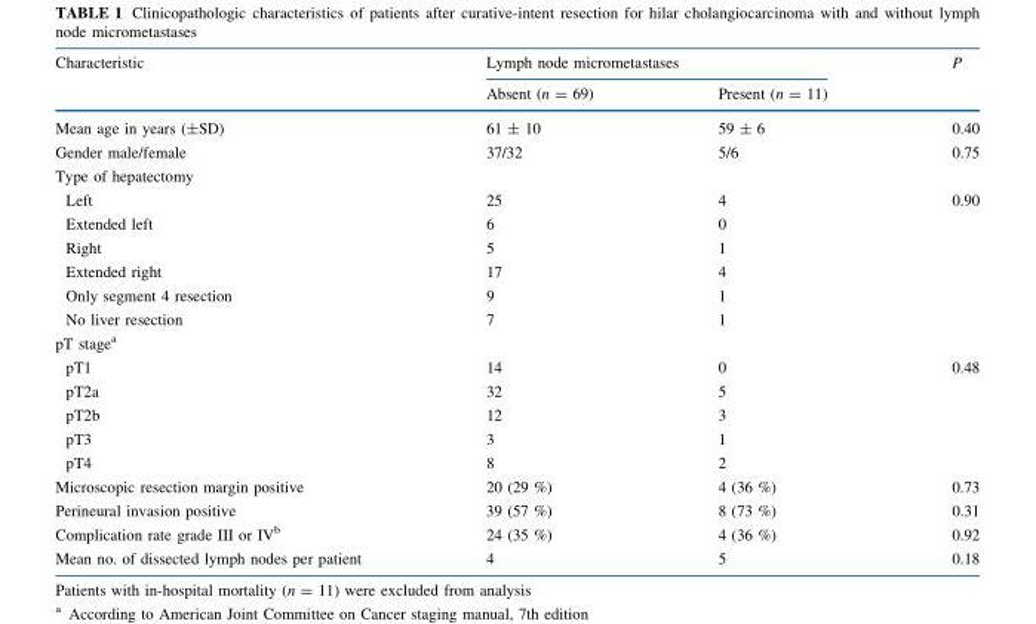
<table><thead><tr><td rowspan="2">Characteristic</td><td colspan="2">Lymph node micrometastases</td><td rowspan="2">P</td></tr><tr><td>Absent (n = 69)</td><td>Present (n = 11)</td></tr></thead><tbody><tr><td>Mean age in years (±SD)</td><td>61 ± 10</td><td>59 ± 6</td><td>0.40</td></tr><tr><td>Gender male/female</td><td>37/32</td><td>5/6</td><td>0.75</td></tr><tr><td colspan="4">Type of hepatectomy</td></tr><tr><td>Left</td><td>25</td><td>4</td><td rowspan="6">0.90</td></tr><tr><td>Extended left</td><td>6</td><td>0</td></tr><tr><td>Right</td><td>5</td><td>1</td></tr><tr><td>Extended right</td><td>17</td><td>4</td></tr><tr><td>Only segment 4 resection</td><td>9</td><td>1</td></tr><tr><td>No liver resection</td><td>7</td><td>1</td></tr><tr><td colspan="4">pT stage<sup>a</sup></td></tr><tr><td>pT1</td><td>14</td><td>0</td><td rowspan="5">0.48</td></tr><tr><td>pT2a</td><td>32</td><td>5</td></tr><tr><td>pT2b</td><td>12</td><td>3</td></tr><tr><td>pT3</td><td>3</td><td>1</td></tr><tr><td>pT4</td><td>8</td><td>2</td></tr><tr><td>Microscopic resection margin positive</td><td>20 (29 %)</td><td>4 (36 %)</td><td>0.73</td></tr><tr><td>Perineural invasion positive</td><td>39 (57 %)</td><td>8 (73 %)</td><td>0.31</td></tr><tr><td>Complication rate grade III or IV<sup>b</sup></td><td>24 (35 %)</td><td>4 (36 %)</td><td>0.92</td></tr><tr><td>Mean no. of dissected lymph nodes per patient</td><td>4</td><td>5</td><td>0.18</td></tr></tbody></table>